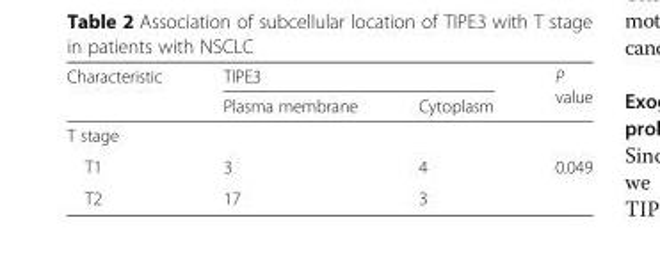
<table><thead><tr><td rowspan="2">Characteristic</td><td colspan="2">TIPE3</td><td rowspan="2">P value</td></tr><tr><td>Plasma membrane</td><td>Cytoplasm</td></tr></thead><tbody><tr><td colspan="4">T stage</td></tr><tr><td>T1</td><td>3</td><td>4</td><td rowspan="2">0.049</td></tr><tr><td>T2</td><td>17</td><td>3</td></tr></tbody></table>